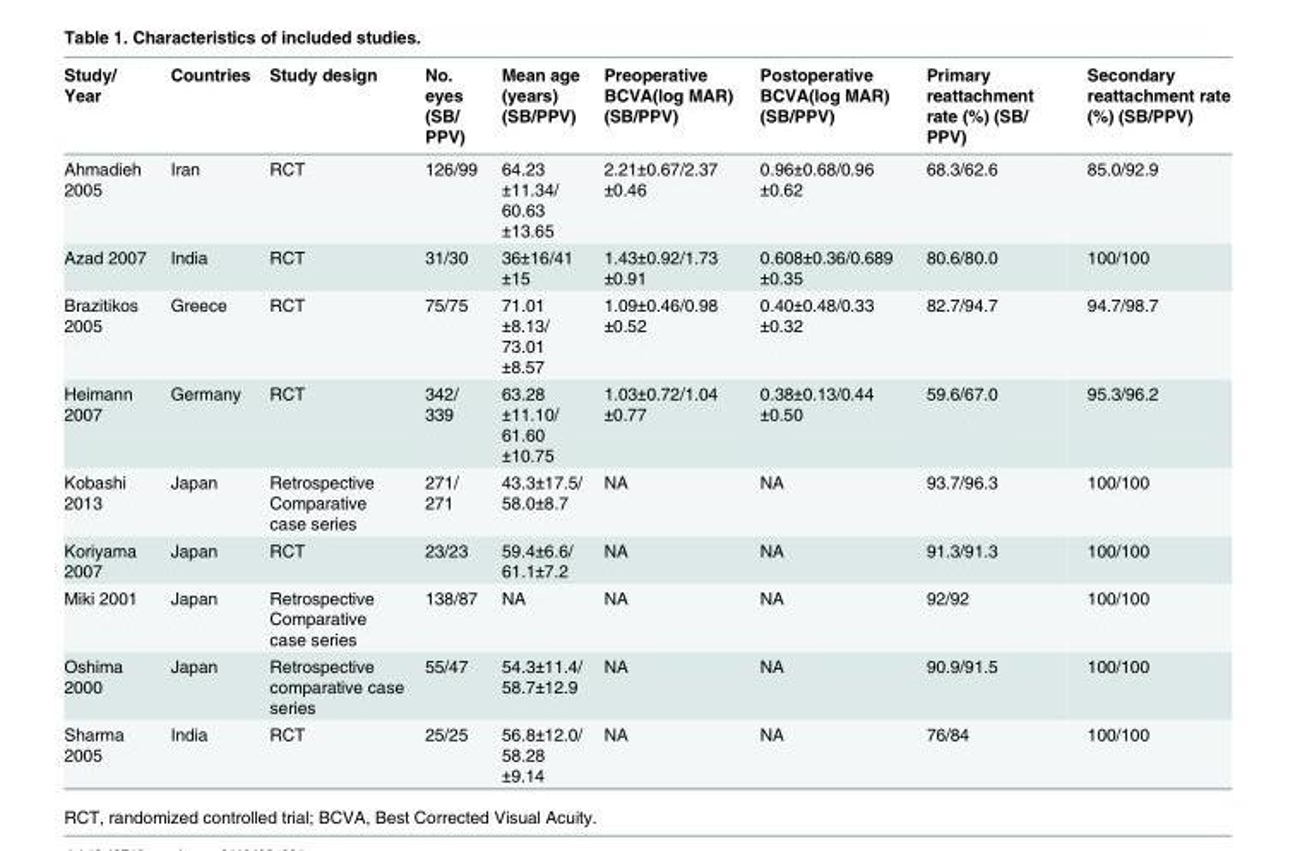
<table><thead><tr><td>Study/ Year</td><td>Countries</td><td>Study design</td><td>No. eyes (SB/ PPV)</td><td>Mean age (years) (SB/PPV)</td><td>Preoperative BCVA(log MAR) (SB/PPV)</td><td>Postoperative BCVA(log MAR) (SB/PPV)</td><td>Primary reattachment rate (%) (SB/ PPV)</td><td>Secondary reattachment rate (%) (SB/PPV)</td></tr></thead><tbody><tr><td>Ahmadieh 2005</td><td>Iran</td><td>RCT</td><td>126/99</td><td>64.23 ±11.34/ 60.63 ±13.65</td><td>2.21±0.67/2.37 ±0.46</td><td>0.96±0.68/0.96 ±0.62</td><td>68.3/62.6</td><td>85.0/92.9</td></tr><tr><td>Azad 2007</td><td>India</td><td>RCT</td><td>31/30</td><td>36±16/41 ±15</td><td>1.43±0.92/1.73 ±0.91</td><td>0.608±0.36/0.689 ±0.35</td><td>80.6/80.0</td><td>100/100</td></tr><tr><td>Brazitikos 2005</td><td>Greece</td><td>RCT</td><td>75/75</td><td>71.01 ±8.13/ 73.01 ±8.57</td><td>1.09±0.46/0.98 ±0.52</td><td>0.40±0.48/0.33 ±0.32</td><td>82.7/94.7</td><td>94.7/98.7</td></tr><tr><td>Heimann 2007</td><td>Germany</td><td>RCT</td><td>342/ 339</td><td>63.28 ±11.10/ 61.60 ±10.75</td><td>1.03±0.72/1.04 ±0.77</td><td>0.38±0.13/0.44 ±0.50</td><td>59.6/67.0</td><td>95.3/96.2</td></tr><tr><td>Kobashi 2013</td><td>Japan</td><td>Retrospective Comparative case series</td><td>271/ 271</td><td>43.3±17.5/ 58.0±8.7</td><td>NA</td><td>NA</td><td>93.7/96.3</td><td>100/100</td></tr><tr><td>Koriyama 2007</td><td>Japan</td><td>RCT</td><td>23/23</td><td>59.4±6.6/ 61.1±7.2</td><td>NA</td><td>NA</td><td>91.3/91.3</td><td>100/100</td></tr><tr><td>Miki 2001</td><td>Japan</td><td>Retrospective Comparative case series</td><td>138/87</td><td>NA</td><td>NA</td><td>NA</td><td>92/92</td><td>100/100</td></tr><tr><td>Oshima 2000</td><td>Japan</td><td>Retrospective comparative case series</td><td>55/47</td><td>54.3±11.4/ 58.7±12.9</td><td>NA</td><td>NA</td><td>90.9/91.5</td><td>100/100</td></tr><tr><td>Sharma 2005</td><td>India</td><td>RCT</td><td>25/25</td><td>56.8±12.0/ 58.28 ±9.14</td><td>NA</td><td>NA</td><td>76/84</td><td>100/100</td></tr></tbody></table>